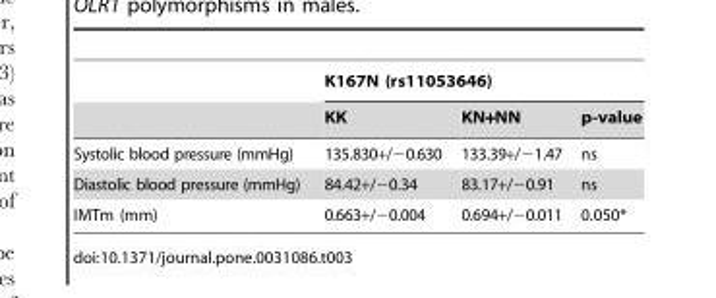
<table><thead><tr><td rowspan="2"></td><td colspan="3">K167N (rs11053646)</td></tr><tr><td>KK</td><td>KN+NN</td><td>p-value</td></tr></thead><tbody><tr><td>Systolic blood pressure (mmHg)</td><td>135.830+/−0.630</td><td>133.39+/−1.47</td><td>ns</td></tr><tr><td>Diastolic blood pressure (mmHg)</td><td>84.42+/−0.34</td><td>83.17+/−0.91</td><td>ns</td></tr><tr><td>IMTm (mm)</td><td>0.663+/−0.004</td><td>0.694+/−0.011</td><td>0.050*</td></tr></tbody></table>